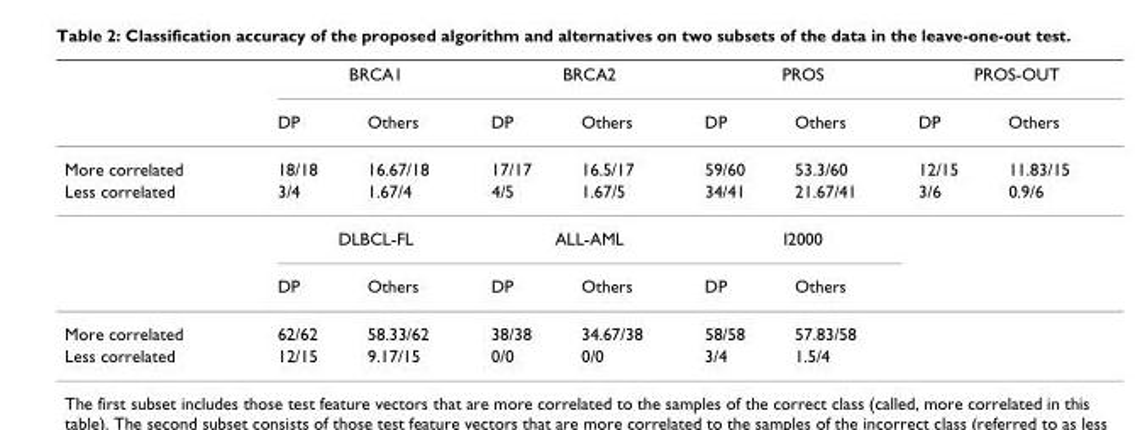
<table><thead><tr><td rowspan="2"></td><td colspan="2">BRCA1</td><td colspan="2">BRCA2</td><td colspan="2">PROS</td><td colspan="2">PROS-OUT</td></tr><tr><td>DP</td><td>Others</td><td>DP</td><td>Others</td><td>DP</td><td>Others</td><td>DP</td><td>Others</td></tr></thead><tbody><tr><td>More correlated</td><td>18/18</td><td>16.67/18</td><td>17/17</td><td>16.5/17</td><td>59/60</td><td>53.3/60</td><td>12/15</td><td>11.83/15</td></tr><tr><td rowspan="3">Less correlated</td><td>3/4</td><td>1.67/4</td><td>4/5</td><td>1.67/5</td><td>34/41</td><td>21.67/41</td><td>3/6</td><td>0.9/6</td></tr><tr><td colspan="2">DLBCL-FL</td><td colspan="2">ALL-AML</td><td colspan="2">I2000</td><td></td><td></td></tr><tr><td>DP</td><td>Others</td><td>DP</td><td>Others</td><td>DP</td><td>Others</td><td></td><td></td></tr><tr><td>More correlated</td><td>62/62</td><td>58.33/62</td><td>38/38</td><td>34.67/38</td><td>58/58</td><td>57.83/58</td><td></td><td></td></tr><tr><td>Less correlated</td><td>12/15</td><td>9.17/15</td><td>0/0</td><td>0/0</td><td>3/4</td><td>1.5/4</td><td></td><td></td></tr></tbody></table>